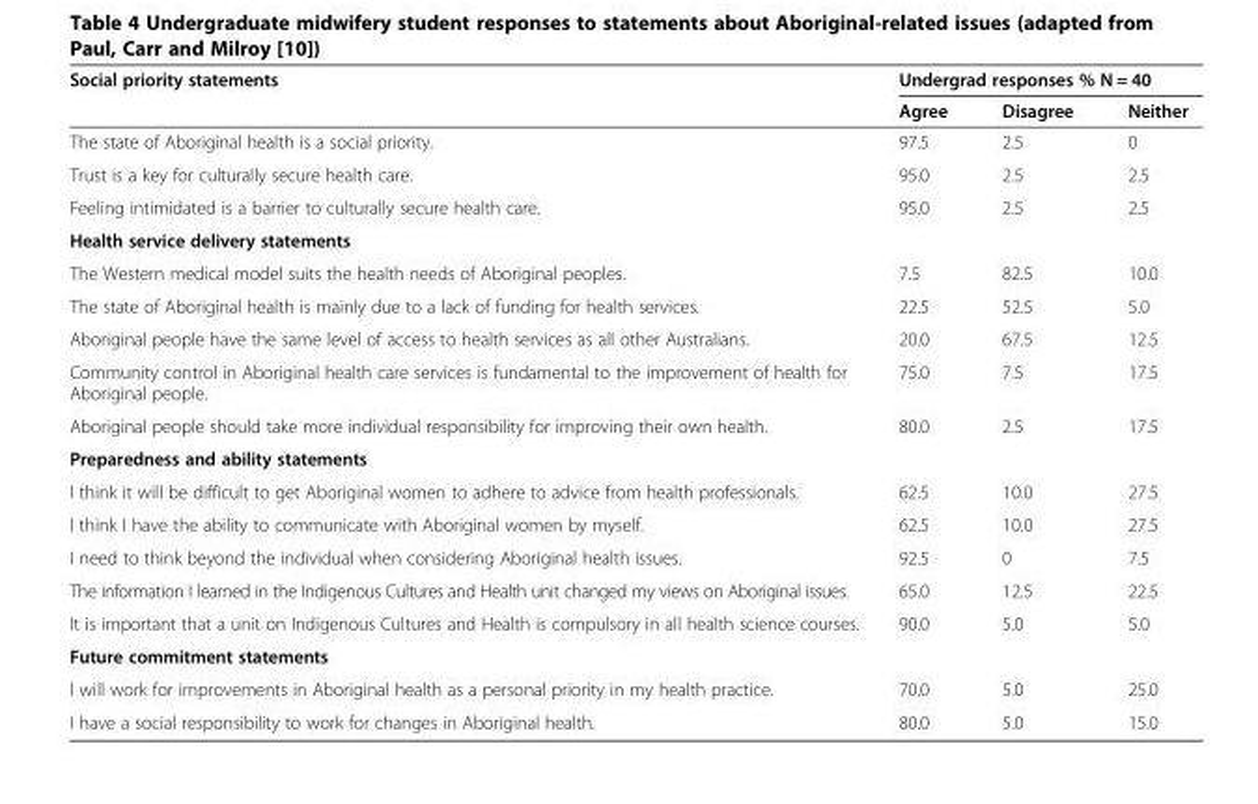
<table><thead><tr><td rowspan="2">Social priority statements</td><td colspan="3">Undergrad responses % N = 40</td></tr><tr><td>Agree</td><td>Disagree</td><td>Neither</td></tr></thead><tbody><tr><td>The state of Aboriginal health is a social priority.</td><td>97.5</td><td>2.5</td><td>0</td></tr><tr><td>Trust is a key for culturally secure health care.</td><td>95.0</td><td>2.5</td><td>2.5</td></tr><tr><td>Feeling intimidated is a barrier to culturally secure health care.</td><td>95.0</td><td>2.5</td><td>2.5</td></tr><tr><td colspan="4">Health service delivery statements</td></tr><tr><td>The Western medical model suits the health needs of Aboriginal peoples.</td><td>7.5</td><td>82.5</td><td>10.0</td></tr><tr><td>The state of Aboriginal health is mainly due to a lack of funding for health services.</td><td>22.5</td><td>52.5</td><td>5.0</td></tr><tr><td>Aboriginal people have the same level of access to health services as all other Australians.</td><td>20.0</td><td>67.5</td><td>12.5</td></tr><tr><td>Community control in Aboriginal health care services is fundamental to the improvement of health for Aboriginal people.</td><td>75.0</td><td>7.5</td><td>17.5</td></tr><tr><td>Aboriginal people should take more individual responsibility for improving their own health.</td><td>80.0</td><td>2.5</td><td>17.5</td></tr><tr><td colspan="4">Preparedness and ability statements</td></tr><tr><td>I think it will be difficult to get Aboriginal women to adhere to advice from health professionals.</td><td>62.5</td><td>10.0</td><td>27.5</td></tr><tr><td>I think I have the ability to communicate with Aboriginal women by myself.</td><td>62.5</td><td>10.0</td><td>27.5</td></tr><tr><td>I need to think beyond the individual when considering Aboriginal health issues.</td><td>92.5</td><td>0</td><td>7.5</td></tr><tr><td>The information I learned in the Indigenous Cultures and Health unit changed my views on Aboriginal issues.</td><td>65.0</td><td>12.5</td><td>22.5</td></tr><tr><td>It is important that a unit on Indigenous Cultures and Health is compulsory in all health science courses.</td><td>90.0</td><td>5.0</td><td>5.0</td></tr><tr><td colspan="4">Future commitment statements</td></tr><tr><td>I will work for improvements in Aboriginal health as a personal priority in my health practice.</td><td>70.0</td><td>5.0</td><td>25.0</td></tr><tr><td>I have a social responsibility to work for changes in Aboriginal health.</td><td>80.0</td><td>5.0</td><td>15.0</td></tr></tbody></table>